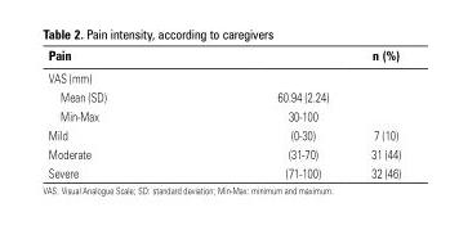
<table><thead><tr><td>Pain</td><td></td><td>n (%)</td></tr></thead><tbody><tr><td colspan="3">VAS (mm)</td></tr><tr><td>Mean (SD)</td><td>60.94 (2.24)</td><td></td></tr><tr><td>Min-Max</td><td>30-100</td><td></td></tr><tr><td>Mild</td><td>(0-30)</td><td>7 (10)</td></tr><tr><td>Moderate</td><td>(31-70)</td><td>31 (44)</td></tr><tr><td>Severe</td><td>(71-100)</td><td>32 (46)</td></tr></tbody></table>